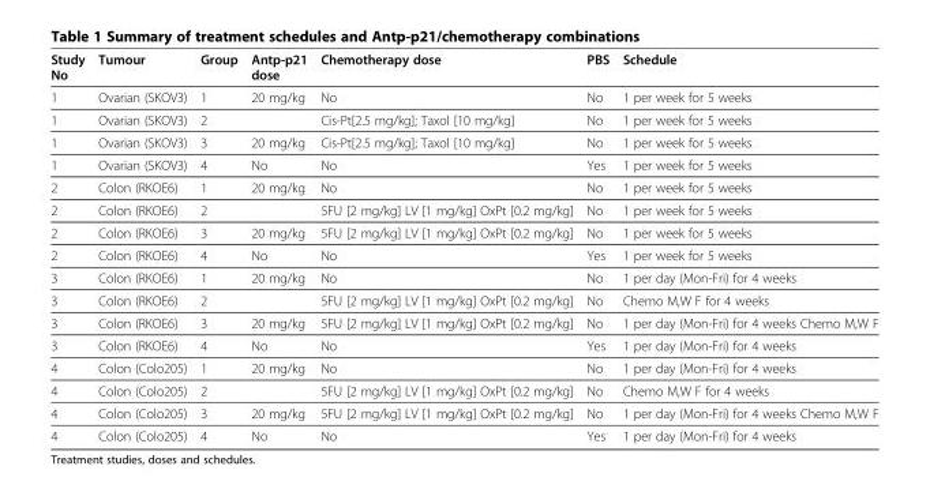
<table><thead><tr><td>Study No</td><td>Tumour</td><td>Group</td><td>Antp-p21 dose</td><td>Chemotherapy dose</td><td>PBS</td><td>Schedule</td></tr></thead><tbody><tr><td>1</td><td>Ovarian (SKOV3)</td><td>1</td><td>20 mg/kg</td><td>No</td><td>No</td><td>1 per week for 5 weeks</td></tr><tr><td>1</td><td>Ovarian (SKOV3)</td><td>2</td><td></td><td>Cis-Pt[2.5 mg/kg]; Taxol [10 mg/kg]</td><td>No</td><td>1 per week for 5 weeks</td></tr><tr><td>1</td><td>Ovarian (SKOV3)</td><td>3</td><td>20 mg/kg</td><td>Cis-Pt[2.5 mg/kg]; Taxol [10 mg/kg]</td><td>No</td><td>1 per week for 5 weeks</td></tr><tr><td>1</td><td>Ovarian (SKOV3)</td><td>4</td><td>No</td><td>No</td><td>Yes</td><td>1 per week for 5 weeks</td></tr><tr><td>2</td><td>Colon (RKOE6)</td><td>1</td><td>20 mg/kg</td><td>No</td><td>No</td><td>1 per week for 5 weeks</td></tr><tr><td>2</td><td>Colon (RKOE6)</td><td>2</td><td></td><td>5FU [2 mg/kg] LV [1 mg/kg] OxPt [0.2 mg/kg]</td><td>No</td><td>1 per week for 5 weeks</td></tr><tr><td>2</td><td>Colon (RKOE6)</td><td>3</td><td>20 mg/kg</td><td>5FU [2 mg/kg] LV [1 mg/kg] OxPt [0.2 mg/kg]</td><td>No</td><td>1 per week for 5 weeks</td></tr><tr><td>2</td><td>Colon (RKOE6)</td><td>4</td><td>No</td><td>No</td><td>Yes</td><td>1 per week for 5 weeks</td></tr><tr><td>3</td><td>Colon (RKOE6)</td><td>1</td><td>20 mg/kg</td><td>No</td><td>No</td><td>1 per day (Mon-Fri) for 4 weeks</td></tr><tr><td>3</td><td>Colon (RKOE6)</td><td>2</td><td></td><td>5FU [2 mg/kg] LV [1 mg/kg] OxPt [0.2 mg/kg]</td><td>No</td><td>Chemo M,W F for 4 weeks</td></tr><tr><td>3</td><td>Colon (RKOE6)</td><td>3</td><td>20 mg/kg</td><td>5FU [2 mg/kg] LV [1 mg/kg] OxPt [0.2 mg/kg]</td><td>No</td><td>1 per day (Mon-Fri) for 4 weeks Chemo M,W F</td></tr><tr><td>3</td><td>Colon (RKOE6)</td><td>4</td><td>No</td><td>No</td><td>Yes</td><td>1 per day (Mon-Fri) for 4 weeks</td></tr><tr><td>4</td><td>Colon (Colo205)</td><td>1</td><td>20 mg/kg</td><td>No</td><td>No</td><td>1 per day (Mon-Fri) for 4 weeks</td></tr><tr><td>4</td><td>Colon (Colo205)</td><td>2</td><td></td><td>5FU [2 mg/kg] LV [1 mg/kg] OxPt [0.2 mg/kg]</td><td>No</td><td>Chemo M,W F for 4 weeks</td></tr><tr><td>4</td><td>Colon (Colo205)</td><td>3</td><td>20 mg/kg</td><td>5FU [2 mg/kg] LV [1 mg/kg] OxPt [0.2 mg/kg]</td><td>No</td><td>1 per day (Mon-Fri) for 4 weeks Chemo M,W F</td></tr><tr><td>4</td><td>Colon (Colo205)</td><td>4</td><td>No</td><td>No</td><td>Yes</td><td>1 per day (Mon-Fri) for 4 weeks</td></tr></tbody></table>